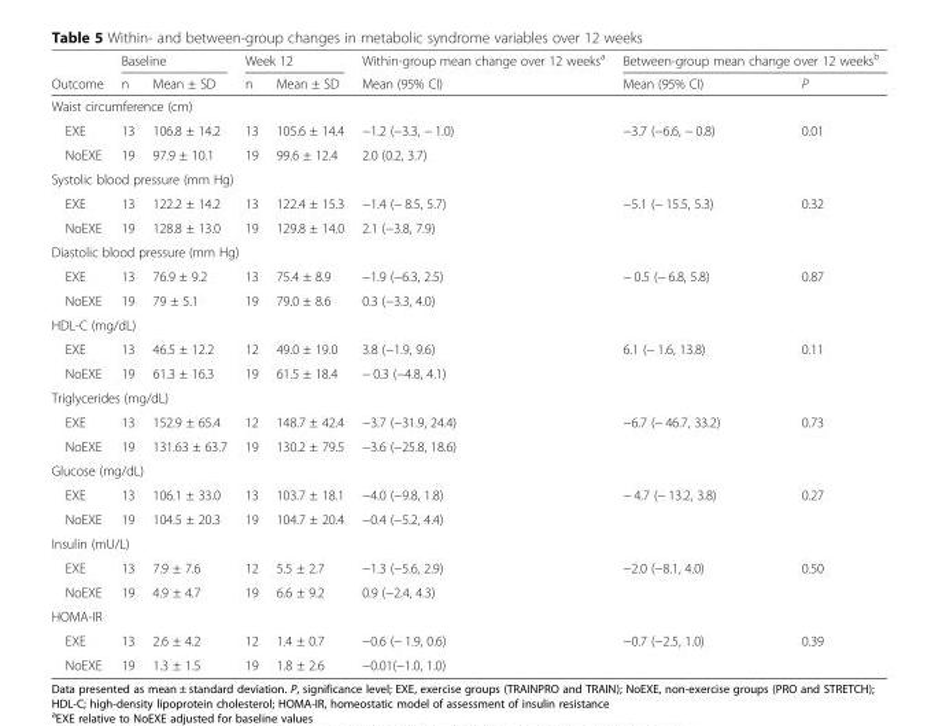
<table><thead><tr><td rowspan="2">Outcome</td><td colspan="2">Baseline</td><td colspan="2">Week 12</td><td rowspan="2">Within-group mean change over 12 weeks<sup>a</sup> Mean (95% CI)</td><td colspan="2">Between-group mean change over 12 weeks<sup>b</sup></td></tr><tr><td>n</td><td>Mean ± SD</td><td>n</td><td>Mean ± SD</td><td>Mean (95% CI)</td><td>P</td></tr></thead><tbody><tr><td colspan="8">Waist circumference (cm)</td></tr><tr><td>EXE</td><td>13</td><td>106.8 ± 14.2</td><td>13</td><td>105.6 ± 14.4</td><td>−1.2 (−3.3, − 1.0)</td><td>−3.7 (−6.6, − 0.8)</td><td>0.01</td></tr><tr><td>NoEXE</td><td>19</td><td>97.9 ± 10.1</td><td>19</td><td>99.6 ± 12.4</td><td>2.0 (0.2, 3.7)</td><td></td><td></td></tr><tr><td colspan="8">Systolic blood pressure (mm Hg)</td></tr><tr><td>EXE</td><td>13</td><td>122.2 ± 14.2</td><td>13</td><td>122.4 ± 15.3</td><td>−1.4 (− 8.5, 5.7)</td><td>−5.1 (− 15.5, 5.3)</td><td>0.32</td></tr><tr><td>NoEXE</td><td>19</td><td>128.8 ± 13.0</td><td>19</td><td>129.8 ± 14.0</td><td>2.1 (−3.8, 7.9)</td><td></td><td></td></tr><tr><td colspan="8">Diastolic blood pressure (mm Hg)</td></tr><tr><td>EXE</td><td>13</td><td>76.9 ± 9.2</td><td>13</td><td>75.4 ± 8.9</td><td>−1.9 (−6.3, 2.5)</td><td>− 0.5 (− 6.8, 5.8)</td><td>0.87</td></tr><tr><td>NoEXE</td><td>19</td><td>79 ± 5.1</td><td>19</td><td>79.0 ± 8.6</td><td>0.3 (−3.3, 4.0)</td><td></td><td></td></tr><tr><td colspan="8">HDL-C (mg/dL)</td></tr><tr><td>EXE</td><td>13</td><td>46.5 ± 12.2</td><td>12</td><td>49.0 ± 19.0</td><td>3.8 (−1.9, 9.6)</td><td>6.1 (− 1.6, 13.8)</td><td>0.11</td></tr><tr><td>NoEXE</td><td>19</td><td>61.3 ± 16.3</td><td>19</td><td>61.5 ± 18.4</td><td>− 0.3 (−4.8, 4.1)</td><td></td><td></td></tr><tr><td colspan="8">Triglycerides (mg/dL)</td></tr><tr><td>EXE</td><td>13</td><td>152.9 ± 65.4</td><td>12</td><td>148.7 ± 42.4</td><td>−3.7 (−31.9, 24.4)</td><td>−6.7 (− 46.7, 33.2)</td><td>0.73</td></tr><tr><td>NoEXE</td><td>19</td><td>131.63 ± 63.7</td><td>19</td><td>130.2 ± 79.5</td><td>−3.6 (−25.8, 18.6)</td><td></td><td></td></tr><tr><td colspan="8">Glucose (mg/dL)</td></tr><tr><td>EXE</td><td>13</td><td>106.1 ± 33.0</td><td>13</td><td>103.7 ± 18.1</td><td>−4.0 (−9.8, 1.8)</td><td>− 4.7 (− 13.2, 3.8)</td><td>0.27</td></tr><tr><td>NoEXE</td><td>19</td><td>104.5 ± 20.3</td><td>19</td><td>104.7 ± 20.4</td><td>−0.4 (−5.2, 4.4)</td><td></td><td></td></tr><tr><td colspan="8">Insulin (mU/L)</td></tr><tr><td>EXE</td><td>13</td><td>7.9 ± 7.6</td><td>12</td><td>5.5 ± 2.7</td><td>−1.3 (−5.6, 2.9)</td><td>−2.0 (−8.1, 4.0)</td><td>0.50</td></tr><tr><td>NoEXE</td><td>19</td><td>4.9 ± 4.7</td><td>19</td><td>6.6 ± 9.2</td><td>0.9 (−2.4, 4.3)</td><td></td><td></td></tr><tr><td colspan="8">HOMA-IR</td></tr><tr><td>EXE</td><td>13</td><td>2.6 ± 4.2</td><td>12</td><td>1.4 ± 0.7</td><td>−0.6 (− 1.9, 0.6)</td><td>−0.7 (−2.5, 1.0)</td><td>0.39</td></tr><tr><td>NoEXE</td><td>19</td><td>1.3 ± 1.5</td><td>19</td><td>1.8 ± 2.6</td><td>−0.01(−1.0, 1.0)</td><td></td><td></td></tr></tbody></table>